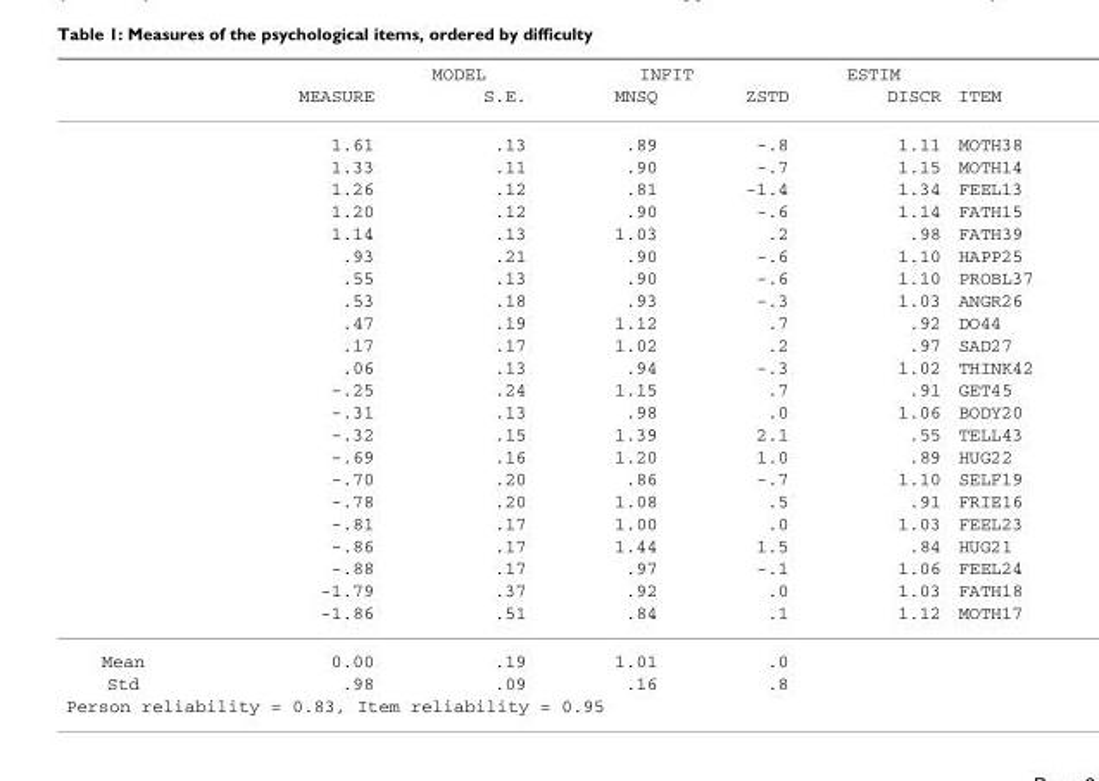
<table><thead><tr><td rowspan="2"></td><td rowspan="2">MEASURE</td><td rowspan="2">MODEL S.E.</td><td colspan="2">INFIT</td><td rowspan="2">ESTIM DISCR</td><td rowspan="2">ITEM</td></tr><tr><td>MNSQ</td><td>ZSTD</td></tr></thead><tbody><tr><td></td><td>1.61</td><td>.13</td><td>.89</td><td>-.8</td><td>1.11</td><td>MOTH38</td></tr><tr><td></td><td>1.33</td><td>.11</td><td>.90</td><td>-.7</td><td>1.15</td><td>MOTH14</td></tr><tr><td></td><td>1.26</td><td>.12</td><td>.81</td><td>-1.4</td><td>1.34</td><td>FEEL13</td></tr><tr><td></td><td>1.20</td><td>.12</td><td>.90</td><td>-.6</td><td>1.14</td><td>FATH15</td></tr><tr><td></td><td>1.14</td><td>.13</td><td>1.03</td><td>.2</td><td>.98</td><td>FATH39</td></tr><tr><td></td><td>.93</td><td>.21</td><td>.90</td><td>-.6</td><td>1.10</td><td>HAPP25</td></tr><tr><td></td><td>.55</td><td>.13</td><td>.90</td><td>-.6</td><td>1.10</td><td>PROBL37</td></tr><tr><td></td><td>.53</td><td>.18</td><td>.93</td><td>-.3</td><td>1.03</td><td>ANGR26</td></tr><tr><td></td><td>.47</td><td>.19</td><td>1.12</td><td>.7</td><td>.92</td><td>DO44</td></tr><tr><td></td><td>.17</td><td>.17</td><td>1.02</td><td>.2</td><td>.97</td><td>SAD27</td></tr><tr><td></td><td>.06</td><td>.13</td><td>.94</td><td>-.3</td><td>1.02</td><td>THINK42</td></tr><tr><td></td><td>-.25</td><td>.24</td><td>1.15</td><td>.7</td><td>.91</td><td>GET45</td></tr><tr><td></td><td>-.31</td><td>.13</td><td>.98</td><td>.0</td><td>1.06</td><td>BODY20</td></tr><tr><td></td><td>-.32</td><td>.15</td><td>1.39</td><td>2.1</td><td>.55</td><td>TELL43</td></tr><tr><td></td><td>-.69</td><td>.16</td><td>1.20</td><td>1.0</td><td>.89</td><td>HUG22</td></tr><tr><td></td><td>-.70</td><td>.20</td><td>.86</td><td>-.7</td><td>1.10</td><td>SELF19</td></tr><tr><td></td><td>-.78</td><td>.20</td><td>1.08</td><td>.5</td><td>.91</td><td>FRIE16</td></tr><tr><td></td><td>-.81</td><td>.17</td><td>1.00</td><td>.0</td><td>1.03</td><td>FEEL23</td></tr><tr><td></td><td>-.86</td><td>.17</td><td>1.44</td><td>1.5</td><td>.84</td><td>HUG21</td></tr><tr><td></td><td>-.88</td><td>.17</td><td>.97</td><td>-.1</td><td>1.06</td><td>FEEL24</td></tr><tr><td></td><td>-1.79</td><td>.37</td><td>.92</td><td>.0</td><td>1.03</td><td>FATH18</td></tr><tr><td></td><td>-1.86</td><td>.51</td><td>.84</td><td>.1</td><td>1.12</td><td>MOTH17</td></tr><tr><td>Mean</td><td>0.00</td><td>.19</td><td>1.01</td><td>.0</td><td></td><td></td></tr><tr><td>Std</td><td>.98</td><td>.09</td><td>.16</td><td>.8</td><td></td><td></td></tr><tr><td colspan="7">Person reliability = 0.83, Item reliability = 0.95</td></tr></tbody></table>